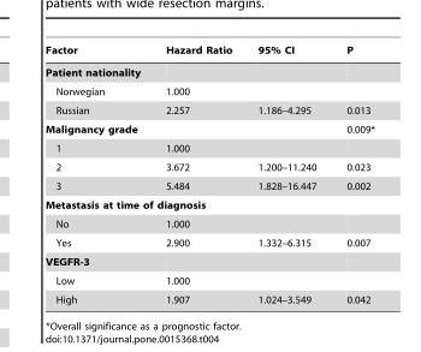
<table><thead><tr><td>Factor</td><td>Hazard Ratio</td><td>95% CI</td><td>P</td></tr></thead><tbody><tr><td colspan="4">Patient nationality</td></tr><tr><td>Norwegian</td><td>1.000</td><td></td><td></td></tr><tr><td>Russian</td><td>2.257</td><td>1.186–4.295</td><td>0.013</td></tr><tr><td>Malignancy grade</td><td></td><td></td><td>0.009*</td></tr><tr><td>1</td><td>1.000</td><td></td><td></td></tr><tr><td>2</td><td>3.672</td><td>1.200–11.240</td><td>0.023</td></tr><tr><td>3</td><td>5.484</td><td>1.828–16.447</td><td>0.002</td></tr><tr><td colspan="4">Metastasis at time of diagnosis</td></tr><tr><td>No</td><td>1.000</td><td></td><td></td></tr><tr><td>Yes</td><td>2.900</td><td>1.332–6.315</td><td>0.007</td></tr><tr><td colspan="4">VEGFR-3</td></tr><tr><td>Low</td><td>1.000</td><td></td><td></td></tr><tr><td>High</td><td>1.907</td><td>1.024–3.549</td><td>0.042</td></tr></tbody></table>